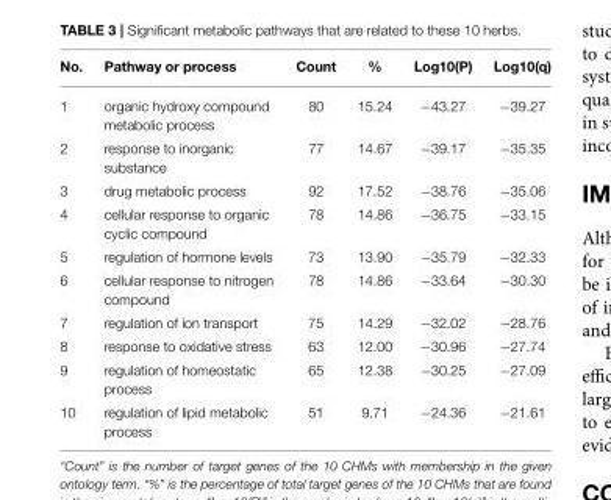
<table><thead><tr><td>No.</td><td>Pathway or process</td><td>Count</td><td>%</td><td>Log10(P)</td><td>Log10(q)</td></tr></thead><tbody><tr><td>1</td><td>organic hydroxy compound metabolic process</td><td>80</td><td>15.24</td><td>−43.27</td><td>−39.27</td></tr><tr><td>2</td><td>response to inorganic substance</td><td>77</td><td>14.67</td><td>−39.17</td><td>−35.35</td></tr><tr><td>3</td><td>drug metabolic process</td><td>92</td><td>17.52</td><td>−38.76</td><td>−35.06</td></tr><tr><td>4</td><td>cellular response to organic cyclic compound</td><td>78</td><td>14.86</td><td>−36.75</td><td>−33.15</td></tr><tr><td>5</td><td>regulation of hormone levels</td><td>73</td><td>13.90</td><td>−35.79</td><td>−32.33</td></tr><tr><td>6</td><td>cellular response to nitrogen compound</td><td>78</td><td>14.86</td><td>−33.64</td><td>−30.30</td></tr><tr><td>7</td><td>regulation of ion transport</td><td>75</td><td>14.29</td><td>−32.02</td><td>−28.76</td></tr><tr><td>8</td><td>response to oxidative stress</td><td>63</td><td>12.00</td><td>−30.96</td><td>−27.74</td></tr><tr><td>9</td><td>regulation of homeostatic process</td><td>65</td><td>12.38</td><td>−30.25</td><td>−27.09</td></tr><tr><td>10</td><td>regulation of lipid metabolic process</td><td>51</td><td>9.71</td><td>−24.36</td><td>−21.61</td></tr></tbody></table>